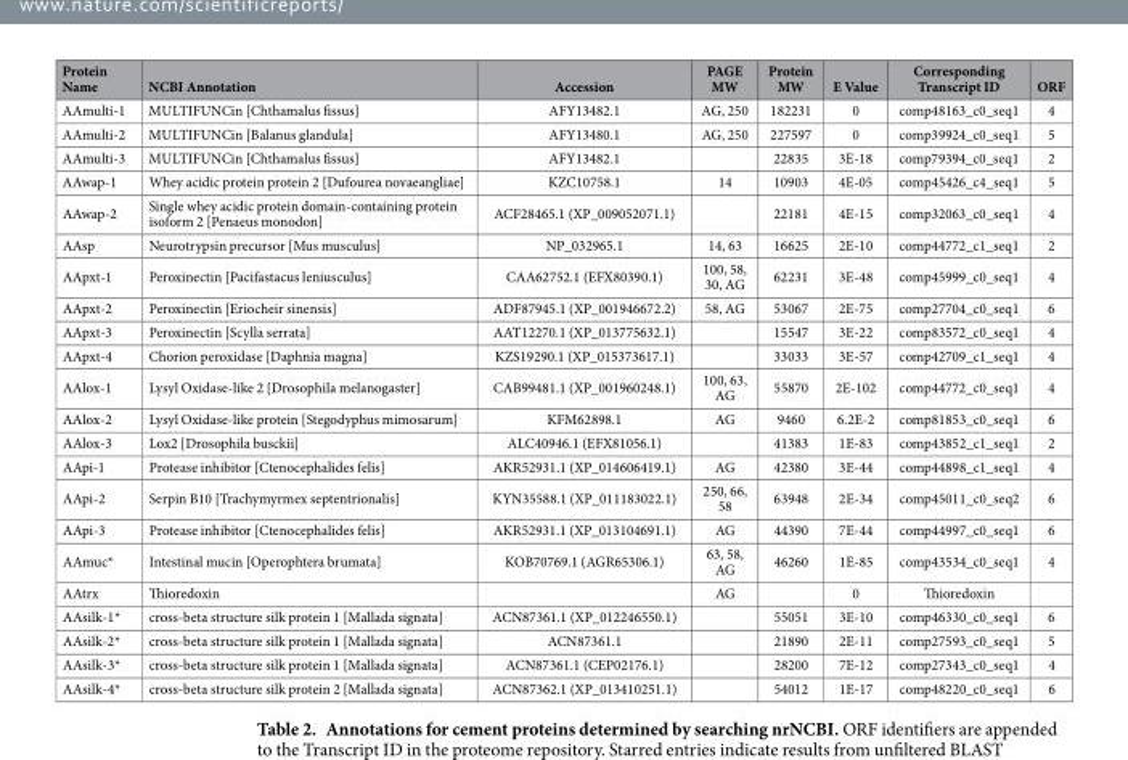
<table><thead><tr><td>Protein Name</td><td>NCBI Annotation</td><td>Accession</td><td>PAGE MW</td><td>Protein MW</td><td>E Value</td><td>Corresponding Transcript ID</td><td>ORF</td></tr></thead><tbody><tr><td>AAmulti-1</td><td>MULTIFUNCin [Chthamalus fissus]</td><td>AFY13482.1</td><td>AG, 250</td><td>182231</td><td>0</td><td>comp48163_c0_seq1</td><td>4</td></tr><tr><td>AAmulti-2</td><td>MULTIFUNCin [Balanus glandula]</td><td>AFY13480.1</td><td>AG, 250</td><td>227597</td><td>0</td><td>comp39924_c0_seq1</td><td>5</td></tr><tr><td>AAmulti-3</td><td>MULTIFUNCin [Chthamalus fissus]</td><td>AFY13482.1</td><td></td><td>22835</td><td>3E-18</td><td>comp79394_c0_seq1</td><td>2</td></tr><tr><td>AAwap-1</td><td>Whey acidic protein protein 2 [Dufourea novaeangliae]</td><td>KZC10758.1</td><td>14</td><td>10903</td><td>4E-05</td><td>comp45426_c4_seq1</td><td>5</td></tr><tr><td>AAwap-2</td><td>Single whey acidic protein domain-containing protein isoform 2 [Penaeus monodon]</td><td>ACF28465.1 (XP_009052071.1)</td><td></td><td>22181</td><td>4E-15</td><td>comp32063_c0_seq1</td><td>4</td></tr><tr><td>AAsp</td><td>Neurotrypsin precursor [Mus musculus]</td><td>NP_032965.1</td><td>14, 63</td><td>16625</td><td>2E-10</td><td>comp44772_c1_seq1</td><td>2</td></tr><tr><td>AApxt-1</td><td>Peroxinectin [Pacifastacus leniusculus]</td><td>CAA62752.1 (EFX80390.1)</td><td>100, 58, 30, AG</td><td>62231</td><td>3E-48</td><td>comp45999_c0_seq1</td><td>4</td></tr><tr><td>AApxt-2</td><td>Peroxinectin [Eriocheir sinensis]</td><td>ADF87945.1 (XP_001946672.2)</td><td>58, AG</td><td>53067</td><td>2E-75</td><td>comp27704_c0_seq1</td><td>6</td></tr><tr><td>AApxt-3</td><td>Peroxinectin [Scylla serrata]</td><td>AAT12270.1 (XP_013775632.1)</td><td></td><td>15547</td><td>3E-22</td><td>comp83572_c0_seq1</td><td>4</td></tr><tr><td>AApxt-4</td><td>Chorion peroxidase [Daphnia magna]</td><td>KZS19290.1 (XP_015373617.1)</td><td></td><td>33033</td><td>3E-57</td><td>comp42709_c1_seq1</td><td>4</td></tr><tr><td>AAlox-1</td><td>Lysyl Oxidase-like 2 [Drosophila melanogaster]</td><td>CAB99481.1 (XP_001960248.1)</td><td>100, 63, AG</td><td>55870</td><td>2E-102</td><td>comp44772_c0_seq1</td><td>4</td></tr><tr><td>AAlox-2</td><td>Lysyl Oxidase-like protein [Stegodyphus mimosarum]</td><td>KFM62898.1</td><td>AG</td><td>9460</td><td>6.2E-2</td><td>comp81853_c0_seq1</td><td>6</td></tr><tr><td>AAlox-3</td><td>Lox2 [Drosophila busckii]</td><td>ALC40946.1 (EFX81056.1)</td><td></td><td>41383</td><td>1E-83</td><td>comp43852_c1_seq1</td><td>2</td></tr><tr><td>AApi-1</td><td>Protease inhibitor [Ctenocephalides felis]</td><td>AKR52931.1 (XP_014606419.1)</td><td>AG</td><td>42380</td><td>3E-44</td><td>comp44898_c1_seq1</td><td>4</td></tr><tr><td>AApi-2</td><td>Serpin B10 [Trachymyrmex septentrionalis]</td><td>KYN35588.1 (XP_011183022.1)</td><td>250, 66, 58</td><td>63948</td><td>2E-34</td><td>comp45011_c0_seq2</td><td>6</td></tr><tr><td>AApi-3</td><td>Protease inhibitor [Ctenocephalides felis]</td><td>AKR52931.1 (XP_013104691.1)</td><td>AG</td><td>44390</td><td>7E-44</td><td>comp44997_c0_seq1</td><td>6</td></tr><tr><td>AAmuc*</td><td>Intestinal mucin [Operophtera brumata]</td><td>KOB70769.1 (AGR65306.1)</td><td>63, 58, AG</td><td>46260</td><td>1E-85</td><td>comp43534_c0_seq1</td><td>4</td></tr><tr><td>AAtrx</td><td>Thioredoxin</td><td></td><td>AG</td><td></td><td>0</td><td>Thioredoxin</td><td></td></tr><tr><td>AAsilk-1*</td><td>cross-beta structure silk protein 1 [Mallada signata]</td><td>ACN87361.1 (XP_012246550.1)</td><td></td><td>55051</td><td>3E-10</td><td>comp46330_c0_seq1</td><td>6</td></tr><tr><td>AAsilk-2*</td><td>cross-beta structure silk protein 1 [Mallada signata]</td><td>ACN87361.1</td><td></td><td>21890</td><td>2E-11</td><td>comp27593_c0_seq1</td><td>5</td></tr><tr><td>AAsilk-3*</td><td>cross-beta structure silk protein 1 [Mallada signata]</td><td>ACN87361.1 (CEP02176.1)</td><td></td><td>28200</td><td>7E-12</td><td>comp27343_c0_seq1</td><td>4</td></tr><tr><td>AAsilk-4*</td><td>cross-beta structure silk protein 2 [Mallada signata]</td><td>ACN87362.1 (XP_013410251.1)</td><td></td><td>54012</td><td>1E-17</td><td>comp48220_c0_seq1</td><td>6</td></tr></tbody></table>